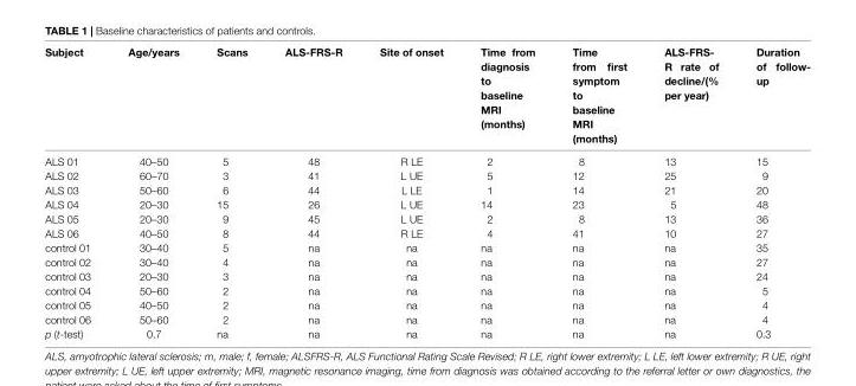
<table><thead><tr><td>Subject</td><td>Age/years</td><td>Scans</td><td>ALS-FRS-R</td><td>Site of onset</td><td>Time from diagnosis to baseline MRI (months)</td><td>Time from first symptom to baseline MRI (months)</td><td>ALS-FRS- R rate of decline/(% per year)</td><td>Duration of follow- up</td></tr></thead><tbody><tr><td>ALS 01</td><td>40–50</td><td>5</td><td>48</td><td>R LE</td><td>2</td><td>8</td><td>13</td><td>15</td></tr><tr><td>ALS 02</td><td>60–70</td><td>3</td><td>41</td><td>L UE</td><td>5</td><td>12</td><td>25</td><td>9</td></tr><tr><td>ALS 03</td><td>50–60</td><td>6</td><td>44</td><td>L LE</td><td>1</td><td>14</td><td>21</td><td>20</td></tr><tr><td>ALS 04</td><td>20–30</td><td>15</td><td>26</td><td>L UE</td><td>14</td><td>23</td><td>5</td><td>48</td></tr><tr><td>ALS 05</td><td>20–30</td><td>9</td><td>45</td><td>L UE</td><td>2</td><td>8</td><td>13</td><td>36</td></tr><tr><td>ALS 06</td><td>40–50</td><td>8</td><td>44</td><td>R LE</td><td>4</td><td>41</td><td>10</td><td>27</td></tr><tr><td>control 01</td><td>30–40</td><td>5</td><td>na</td><td>na</td><td>na</td><td>na</td><td>na</td><td>35</td></tr><tr><td>control 02</td><td>30–40</td><td>4</td><td>na</td><td>na</td><td>na</td><td>na</td><td>na</td><td>27</td></tr><tr><td>control 03</td><td>20–30</td><td>3</td><td>na</td><td>na</td><td>na</td><td>na</td><td>na</td><td>24</td></tr><tr><td>control 04</td><td>50–60</td><td>2</td><td>na</td><td>na</td><td>na</td><td>na</td><td>na</td><td>5</td></tr><tr><td>control 05</td><td>40–50</td><td>2</td><td>na</td><td>na</td><td>na</td><td>na</td><td>na</td><td>4</td></tr><tr><td>control 06</td><td>50–60</td><td>2</td><td>na</td><td>na</td><td>na</td><td>na</td><td>na</td><td>4</td></tr><tr><td>p (t-test)</td><td>0.7</td><td>na</td><td>na</td><td>na</td><td>na</td><td>na</td><td>na</td><td>0.3</td></tr></tbody></table>